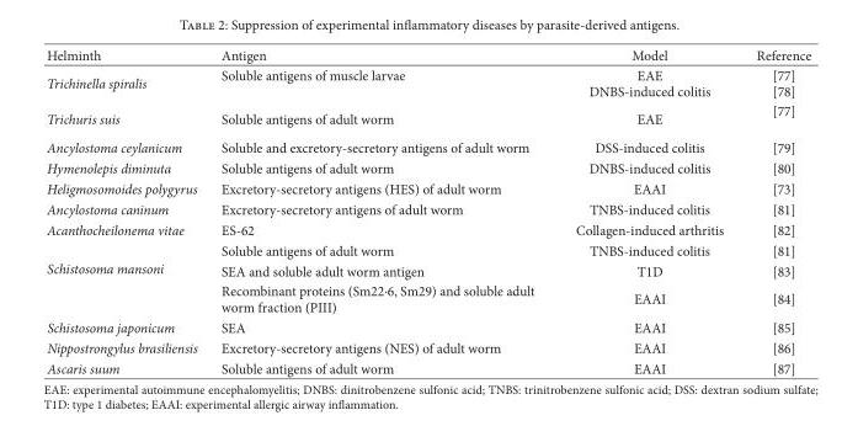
<table><thead><tr><td>Helminth</td><td>Antigen</td><td>Model</td><td>Reference</td></tr></thead><tbody><tr><td>Trichinella spiralis</td><td>Soluble antigens of muscle larvae</td><td>EAE DNBS-induced colitis</td><td>[77] [78]</td></tr><tr><td>Trichuris suis</td><td>Soluble antigens of adult worm</td><td>EAE</td><td>[77]</td></tr><tr><td>Ancylostoma ceylanicum</td><td>Soluble and excretory-secretory antigens of adult worm</td><td>DSS-induced colitis</td><td>[79]</td></tr><tr><td>Hymenolepis diminuta</td><td>Soluble antigens of adult worm</td><td>DNBS-induced colitis</td><td>[80]</td></tr><tr><td>Heligmosomoides polygyrus</td><td>Excretory-secretory antigens (HES) of adult worm</td><td>EAAI</td><td>[73]</td></tr><tr><td>Ancylostoma caninum</td><td>Excretory-secretory antigens of adult worm</td><td>TNBS-induced colitis</td><td>[81]</td></tr><tr><td>Acanthocheilonema vitae</td><td>ES-62</td><td>Collagen-induced arthritis</td><td>[82]</td></tr><tr><td rowspan="3">Schistosoma mansoni</td><td>Soluble antigens of adult worm</td><td>TNBS-induced colitis</td><td>[81]</td></tr><tr><td>SEA and soluble adult worm antigen</td><td>T1D</td><td>[83]</td></tr><tr><td>Recombinant proteins (Sm22⋅6, Sm29) and soluble adult worm fraction (PIII)</td><td>EAAI</td><td>[84]</td></tr><tr><td>Schistosoma japonicum</td><td>SEA</td><td>EAAI</td><td>[85]</td></tr><tr><td>Nippostrongylus brasiliensis</td><td>Excretory-secretory antigens (NES) of adult worm</td><td>EAAI</td><td>[86]</td></tr><tr><td>Ascaris suum</td><td>Soluble antigens of adult worm</td><td>EAAI</td><td>[87]</td></tr></tbody></table>